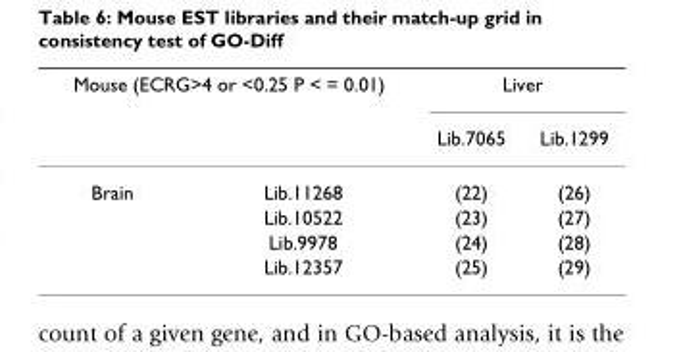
<table><thead><tr><td colspan="2">Mouse (ECRG&gt;4 or &lt;0.25 P &lt; = 0.01)</td><td colspan="2">Liver</td></tr><tr><td></td><td></td><td>Lib.7065</td><td>Lib.1299</td></tr></thead><tbody><tr><td rowspan="4">Brain</td><td>Lib.11268</td><td>(22)</td><td>(26)</td></tr><tr><td>Lib.10522</td><td>(23)</td><td>(27)</td></tr><tr><td>Lib.9978</td><td>(24)</td><td>(28)</td></tr><tr><td>Lib.12357</td><td>(25)</td><td>(29)</td></tr></tbody></table>